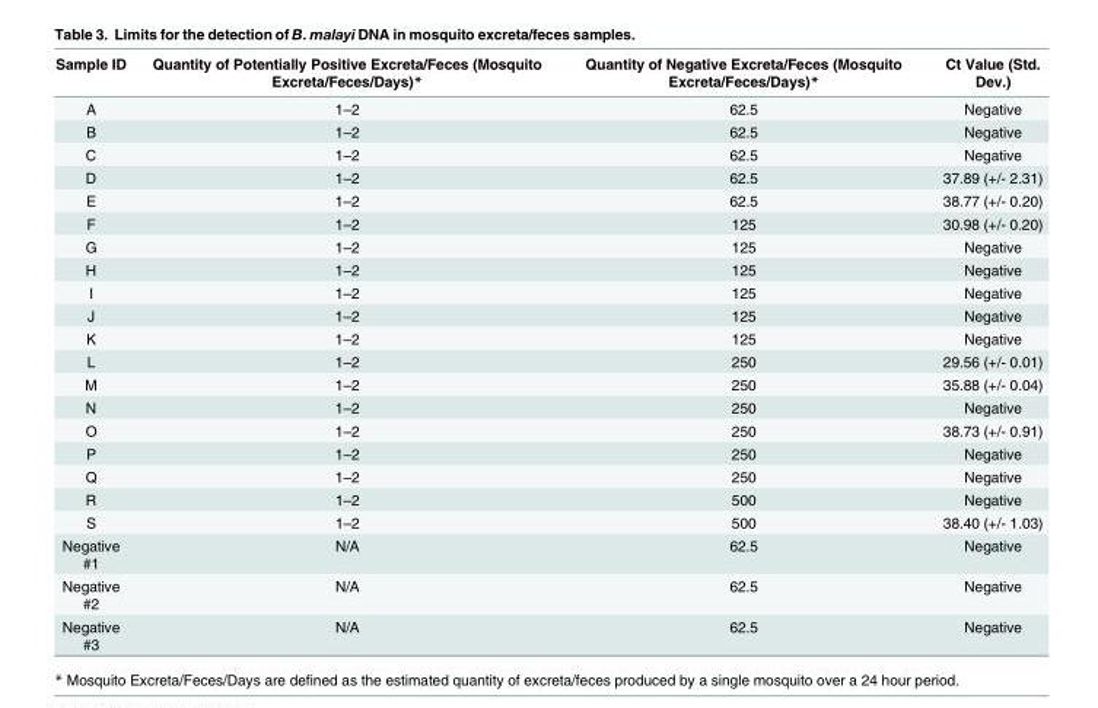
<table><thead><tr><td>Sample ID</td><td>Quantity of Potentially Positive Excreta/Feces (Mosquito Excreta/Feces/Days)*</td><td>Quantity of Negative Excreta/Feces (Mosquito Excreta/Feces/Days)*</td><td>Ct Value (Std. Dev.)</td></tr></thead><tbody><tr><td>A</td><td>1–2</td><td>62.5</td><td>Negative</td></tr><tr><td>B</td><td>1–2</td><td>62.5</td><td>Negative</td></tr><tr><td>C</td><td>1–2</td><td>62.5</td><td>Negative</td></tr><tr><td>D</td><td>1–2</td><td>62.5</td><td>37.89 (+/- 2.31)</td></tr><tr><td>E</td><td>1–2</td><td>62.5</td><td>38.77 (+/- 0.20)</td></tr><tr><td>F</td><td>1–2</td><td>125</td><td>30.98 (+/- 0.20)</td></tr><tr><td>G</td><td>1–2</td><td>125</td><td>Negative</td></tr><tr><td>H</td><td>1–2</td><td>125</td><td>Negative</td></tr><tr><td>I</td><td>1–2</td><td>125</td><td>Negative</td></tr><tr><td>J</td><td>1–2</td><td>125</td><td>Negative</td></tr><tr><td>K</td><td>1–2</td><td>125</td><td>Negative</td></tr><tr><td>L</td><td>1–2</td><td>250</td><td>29.56 (+/- 0.01)</td></tr><tr><td>M</td><td>1–2</td><td>250</td><td>35.88 (+/- 0.04)</td></tr><tr><td>N</td><td>1–2</td><td>250</td><td>Negative</td></tr><tr><td>O</td><td>1–2</td><td>250</td><td>38.73 (+/- 0.91)</td></tr><tr><td>P</td><td>1–2</td><td>250</td><td>Negative</td></tr><tr><td>Q</td><td>1–2</td><td>250</td><td>Negative</td></tr><tr><td>R</td><td>1–2</td><td>500</td><td>Negative</td></tr><tr><td>S</td><td>1–2</td><td>500</td><td>38.40 (+/- 1.03)</td></tr><tr><td>Negative #1</td><td>N/A</td><td>62.5</td><td>Negative</td></tr><tr><td>Negative #2</td><td>N/A</td><td>62.5</td><td>Negative</td></tr><tr><td>Negative #3</td><td>N/A</td><td>62.5</td><td>Negative</td></tr></tbody></table>